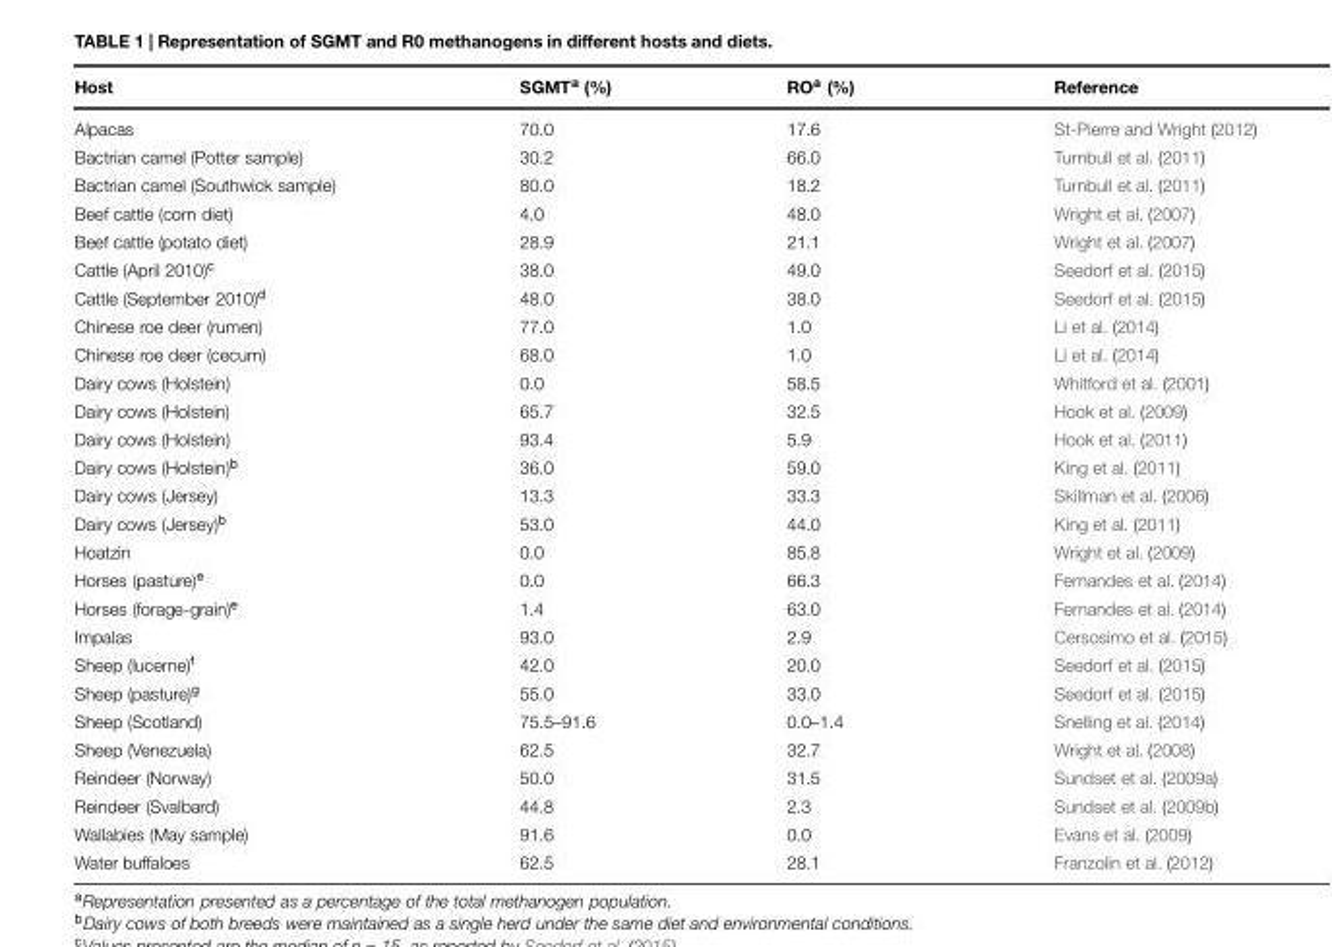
<table><thead><tr><td>Host</td><td>SGMT<sup>a</sup> (%)</td><td>RO<sup>a</sup> (%)</td><td>Reference</td></tr></thead><tbody><tr><td>Alpacas</td><td>70.0</td><td>17.6</td><td>St-Pierre and Wright (2012)</td></tr><tr><td>Bactrian camel (Potter sample)</td><td>30.2</td><td>66.0</td><td>Turnbull et al. (2011)</td></tr><tr><td>Bactrian camel (Southwick sample)</td><td>80.0</td><td>18.2</td><td>Turnbull et al. (2011)</td></tr><tr><td>Beef cattle (corn diet)</td><td>4.0</td><td>48.0</td><td>Wright et al. (2007)</td></tr><tr><td>Beef cattle (potato diet)</td><td>28.9</td><td>21.1</td><td>Wright et al. (2007)</td></tr><tr><td>Cattle (April 2010)<sup>c</sup></td><td>38.0</td><td>49.0</td><td>Seedorf et al. (2015)</td></tr><tr><td>Cattle (September 2010)<sup>d</sup></td><td>48.0</td><td>38.0</td><td>Seedorf et al. (2015)</td></tr><tr><td>Chinese roe deer (rumen)</td><td>77.0</td><td>1.0</td><td>Li et al. (2014)</td></tr><tr><td>Chinese roe deer (cecum)</td><td>68.0</td><td>1.0</td><td>Li et al. (2014)</td></tr><tr><td>Dairy cows (Holstein)</td><td>0.0</td><td>58.5</td><td>Whitford et al. (2001)</td></tr><tr><td>Dairy cows (Holstein)</td><td>65.7</td><td>32.5</td><td>Hook et al. (2009)</td></tr><tr><td>Dairy cows (Holstein)</td><td>93.4</td><td>5.9</td><td>Hook et al. (2011)</td></tr><tr><td>Dairy cows (Holstein)<sup>b</sup></td><td>36.0</td><td>59.0</td><td>King et al. (2011)</td></tr><tr><td>Dairy cows (Jersey)</td><td>13.3</td><td>33.3</td><td>Skillman et al. (2006)</td></tr><tr><td>Dairy cows (Jersey)<sup>b</sup></td><td>53.0</td><td>44.0</td><td>King et al. (2011)</td></tr><tr><td>Hoatzin</td><td>0.0</td><td>85.8</td><td>Wright et al. (2009)</td></tr><tr><td>Horses (pasture)<sup>e</sup></td><td>0.0</td><td>66.3</td><td>Fernandes et al. (2014)</td></tr><tr><td>Horses (forage-grain)<sup>e</sup></td><td>1.4</td><td>63.0</td><td>Fernandes et al. (2014)</td></tr><tr><td>Impalas</td><td>93.0</td><td>2.9</td><td>Cersosimo et al. (2015)</td></tr><tr><td>Sheep (lucerne)<sup>f</sup></td><td>42.0</td><td>20.0</td><td>Seedorf et al. (2015)</td></tr><tr><td>Sheep (pasture)<sup>g</sup></td><td>55.0</td><td>33.0</td><td>Seedorf et al. (2015)</td></tr><tr><td>Sheep (Scotland)</td><td>75.5–91.6</td><td>0.0–1.4</td><td>Snelling et al. (2014)</td></tr><tr><td>Sheep (Venezuela)</td><td>62.5</td><td>32.7</td><td>Wright et al. (2008)</td></tr><tr><td>Reindeer (Norway)</td><td>50.0</td><td>31.5</td><td>Sundset et al. (2009a)</td></tr><tr><td>Reindeer (Svalbard)</td><td>44.8</td><td>2.3</td><td>Sundset et al. (2009b)</td></tr><tr><td>Wallabies (May sample)</td><td>91.6</td><td>0.0</td><td>Evans et al. (2009)</td></tr><tr><td>Water buffaloes</td><td>62.5</td><td>28.1</td><td>Franzolin et al. (2012)</td></tr></tbody></table>